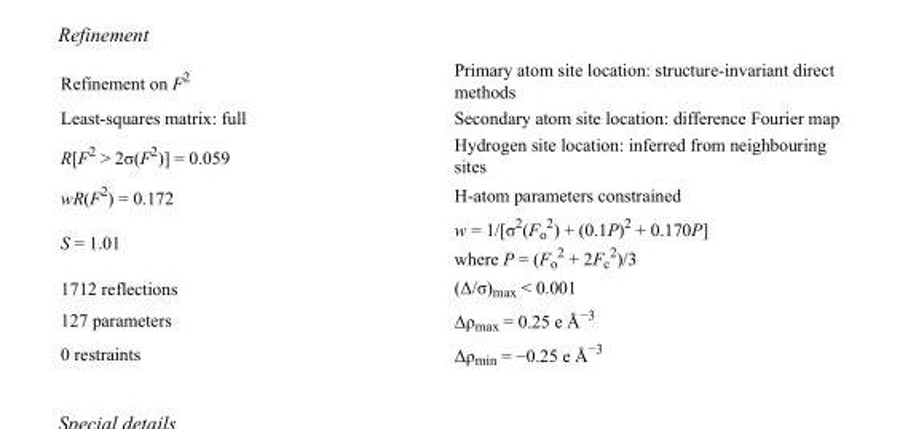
<table><tbody><tr><td>Refinement on F<sup>2</sup></td><td>Primary atom site location: structure-invariant direct methods</td></tr><tr><td>Least-squares matrix: full</td><td>Secondary atom site location: difference Fourier map</td></tr><tr><td>R[F<sup>2</sup> &gt; 2σ(F<sup>2</sup>)] = 0.059</td><td>Hydrogen site location: inferred from neighbouring sites</td></tr><tr><td>wR(F<sup>2</sup>) = 0.172</td><td>H-atom parameters constrained</td></tr><tr><td>S = 1.01</td><td>w = 1/[σ<sup>2</sup>(F<sub>o</sub> <sup>2</sup>) + (0.1P)<sup>2</sup> + 0.170P] where P = (F<sub>o</sub> <sup>2</sup> + 2F<sub>c</sub> <sup>2</sup>)/3</td></tr><tr><td>1712 reflections</td><td>(Δ/σ)<sub>max</sub> &lt; 0.001</td></tr><tr><td>127 parameters</td><td>Δρ<sub>max</sub> = 0.25 e Å<sup>−3</sup></td></tr><tr><td>0 restraints</td><td>Δρ<sub>min</sub> = −0.25 e Å<sup>−3</sup></td></tr></tbody></table>